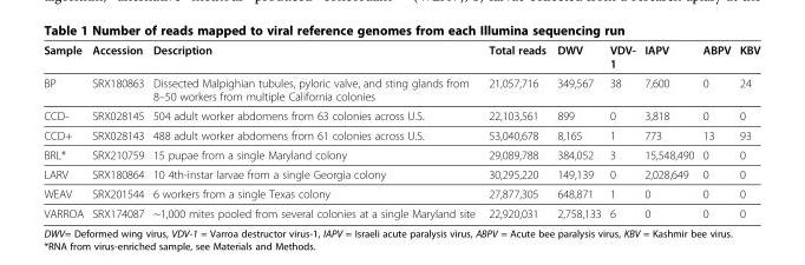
<table><thead><tr><td>Sample</td><td>Accession</td><td>Description</td><td>Total reads</td><td>DWV</td><td>VDV- 1</td><td>IAPV</td><td>ABPV</td><td>KBV</td></tr></thead><tbody><tr><td>BP</td><td>SRX180863</td><td>Dissected Malpighian tubules, pyloric valve, and sting glands from 8–50 workers from multiple California colonies</td><td>21,057,716</td><td>349,567</td><td>38</td><td>7,600</td><td>0</td><td>24</td></tr><tr><td>CCD-</td><td>SRX028145</td><td>504 adult worker abdomens from 63 colonies across U.S.</td><td>22,103,561</td><td>899</td><td>0</td><td>3,818</td><td>0</td><td>0</td></tr><tr><td>CCD+</td><td>SRX028143</td><td>488 adult worker abdomens from 61 colonies across U.S.</td><td>53,040,678</td><td>8,165</td><td>1</td><td>773</td><td>13</td><td>93</td></tr><tr><td>BRL*</td><td>SRX210759</td><td>15 pupae from a single Maryland colony</td><td>29,089,788</td><td>384,052</td><td>3</td><td>15,548,490</td><td>0</td><td>0</td></tr><tr><td>LARV</td><td>SRX180864</td><td>10 4th-instar larvae from a single Georgia colony</td><td>30,295,220</td><td>149,139</td><td>0</td><td>2,028,649</td><td>0</td><td>0</td></tr><tr><td>WEAV</td><td>SRX201544</td><td>6 workers from a single Texas colony</td><td>27,877,305</td><td>648,871</td><td>1</td><td>0</td><td>0</td><td>0</td></tr><tr><td>VARROA</td><td>SRX174087</td><td>~1,000 mites pooled from several colonies at a single Maryland site</td><td>22,920,031</td><td>2,758,133</td><td>6</td><td>0</td><td>0</td><td>0</td></tr></tbody></table>